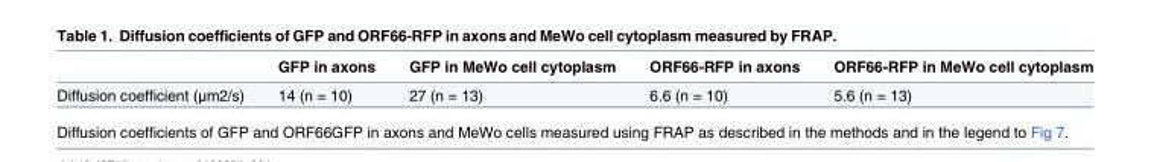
<table><thead><tr><td></td><td>GFP in axons</td><td>GFP in MeWo cell cytoplasm</td><td>ORF66-RFP in axons</td><td>ORF66-RFP in MeWo cell cytoplasm</td></tr></thead><tbody><tr><td>Diffusion coefficient (μm2/s)</td><td>14 (n = 10)</td><td>27 (n = 13)</td><td>6.6 (n = 10)</td><td>5.6 (n = 13)</td></tr></tbody></table>